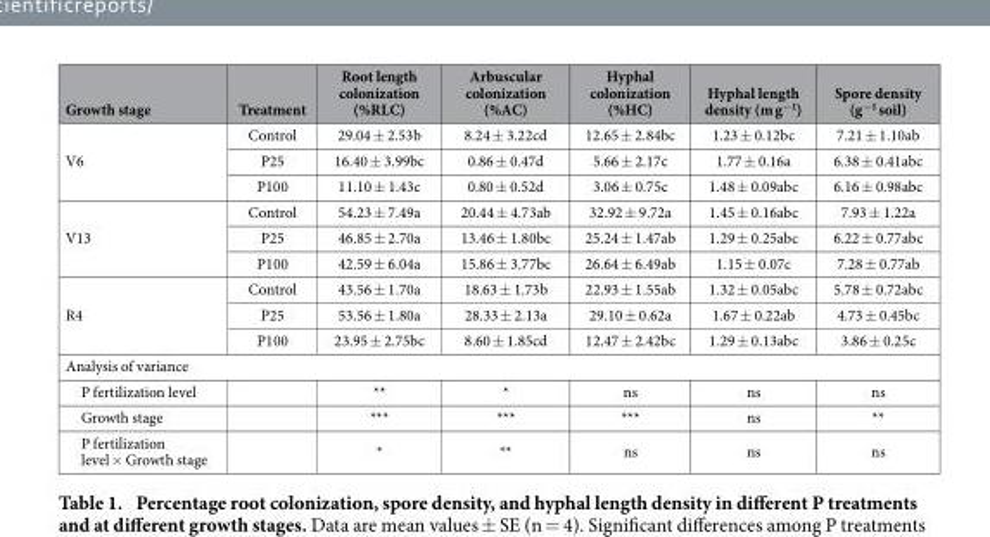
<table><thead><tr><td>Growth stage</td><td>Treatment</td><td>Root length colonization (%RLC)</td><td>Arbuscular colonization (%AC)</td><td>Hyphal colonization (%HC)</td><td>Hyphal length density (m g<sup>−1</sup>)</td><td>Spore density (g<sup>−1</sup> soil)</td></tr></thead><tbody><tr><td rowspan="3">V6</td><td>Control</td><td>29.04 ± 2.53b</td><td>8.24 ± 3.22cd</td><td>12.65 ± 2.84bc</td><td>1.23 ± 0.12bc</td><td>7.21 ± 1.10ab</td></tr><tr><td>P25</td><td>16.40 ± 3.99bc</td><td>0.86 ± 0.47d</td><td>5.66 ± 2.17c</td><td>1.77 ± 0.16a</td><td>6.38 ± 0.41abc</td></tr><tr><td>P100</td><td>11.10 ± 1.43c</td><td>0.80 ± 0.52d</td><td>3.06 ± 0.75c</td><td>1.48 ± 0.09abc</td><td>6.16 ± 0.98abc</td></tr><tr><td rowspan="3">V13</td><td>Control</td><td>54.23 ± 7.49a</td><td>20.44 ± 4.73ab</td><td>32.92 ± 9.72a</td><td>1.45 ± 0.16abc</td><td>7.93 ± 1.22a</td></tr><tr><td>P25</td><td>46.85 ± 2.70a</td><td>13.46 ± 1.80bc</td><td>25.24 ± 1.47ab</td><td>1.29 ± 0.25abc</td><td>6.22 ± 0.77abc</td></tr><tr><td>P100</td><td>42.59 ± 6.04a</td><td>15.86 ± 3.77bc</td><td>26.64 ± 6.49ab</td><td>1.15 ± 0.07c</td><td>7.28 ± 0.77ab</td></tr><tr><td rowspan="3">R4</td><td>Control</td><td>43.56 ± 1.70a</td><td>18.63 ± 1.73b</td><td>22.93 ± 1.55ab</td><td>1.32 ± 0.05abc</td><td>5.78 ± 0.72abc</td></tr><tr><td>P25</td><td>53.56 ± 1.80a</td><td>28.33 ± 2.13a</td><td>29.10 ± 0.62a</td><td>1.67 ± 0.22ab</td><td>4.73 ± 0.45bc</td></tr><tr><td>P100</td><td>23.95 ± 2.75bc</td><td>8.60 ± 1.85cd</td><td>12.47 ± 2.42bc</td><td>1.29 ± 0.13abc</td><td>3.86 ± 0.25c</td></tr><tr><td colspan="7">Analysis of variance</td></tr><tr><td>P fertilization level</td><td></td><td>**</td><td>*</td><td>ns</td><td>ns</td><td>ns</td></tr><tr><td>Growth stage</td><td></td><td>***</td><td>***</td><td>***</td><td>ns</td><td>**</td></tr><tr><td>P fertilization level × Growth stage</td><td></td><td>*</td><td>**</td><td>ns</td><td>ns</td><td>ns</td></tr></tbody></table>